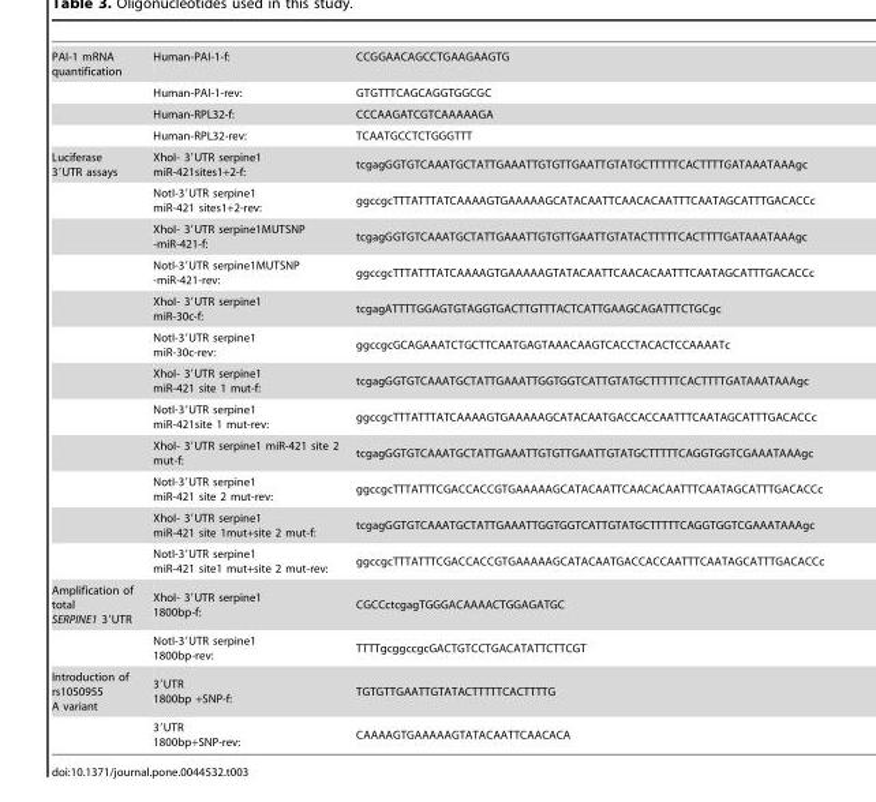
<table><tbody><tr><td rowspan="4">PAI-1 mRNA quantification</td><td>Human-PAI-1-f:</td><td>CCGGAACAGCCTGAAGAAGTG</td></tr><tr><td>Human-PAI-1-rev:</td><td>GTGTTTCAGCAGGTGGCGC</td></tr><tr><td>Human-RPL32-f:</td><td>CCCAAGATCGTCAAAAAGA</td></tr><tr><td>Human-RPL32-rev:</td><td>TCAATGCCTCTGGGTTT</td></tr><tr><td rowspan="12">Luciferase 3′UTR assays</td><td>XhoI- 3′UTR serpine1 miR-421sites1+2-f:</td><td>tcgagGGTGTCAAATGCTATTGAAATTGTGTTGAATTGTATGCTTTTTCACTTTTGATAAATAAAgc</td></tr><tr><td>NotI-3′UTR serpine1 miR-421 sites1+2-rev:</td><td>ggccgcTTTATTTATCAAAAGTGAAAAAGCATACAATTCAACACAATTTCAATAGCATTTGACACCc</td></tr><tr><td>XhoI- 3′UTR serpine1MUTSNP -miR-421-f:</td><td>tcgagGGTGTCAAATGCTATTGAAATTGTGTTGAATTGTATACTTTTTCACTTTTGATAAATAAAgc</td></tr><tr><td>NotI-3′UTR serpine1MUTSNP -miR-421-rev:</td><td>ggccgcTTTATTTATCAAAAGTGAAAAAGTATACAATTCAACACAATTTCAATAGCATTTGACACCc</td></tr><tr><td>XhoI- 3′UTR serpine1 miR-30c-f:</td><td>tcgagATTTTGGAGTGTAGGTGACTTGTTTACTCATTGAAGCAGATTTCTGCgc</td></tr><tr><td>NotI-3′UTR serpine1 miR-30c-rev:</td><td>ggccgcGCAGAAATCTGCTTCAATGAGTAAACAAGTCACCTACACTCCAAAATc</td></tr><tr><td>XhoI- 3′UTR serpine1 miR-421 site 1 mut-f:</td><td>tcgagGGTGTCAAATGCTATTGAAATTGGTGGTCATTGTATGCTTTTTCACTTTTGATAAATAAAgc</td></tr><tr><td>NotI-3′UTR serpine1 miR-421site 1 mut-rev:</td><td>ggccgcTTTATTTATCAAAAGTGAAAAAGCATACAATGACCACCAATTTCAATAGCATTTGACACCc</td></tr><tr><td>XhoI- 3′UTR serpine1 miR-421 site 2 mut-f:</td><td>tcgagGGTGTCAAATGCTATTGAAATTGTGTTGAATTGTATGCTTTTTCAGGTGGTCGAAATAAAgc</td></tr><tr><td>NotI-3′UTR serpine1 miR-421 site 2 mut-rev:</td><td>ggccgcTTTATTTCGACCACCGTGAAAAAGCATACAATTCAACACAATTTCAATAGCATTTGACACCc</td></tr><tr><td>XhoI- 3′UTR serpine1 miR-421 site 1mut+site 2 mut-f:</td><td>tcgagGGTGTCAAATGCTATTGAAATTGGTGGTCATTGTATGCTTTTTCAGGTGGTCGAAATAAAgc</td></tr><tr><td>NotI-3′UTR serpine1 miR-421 site1 mut+site 2 mut-rev:</td><td>ggccgcTTTATTTCGACCACCGTGAAAAAGCATACAATGACCACCAATTTCAATAGCATTTGACACCc</td></tr><tr><td rowspan="2">Amplification of total SERPINE1 3′UTR</td><td>XhoI- 3′UTR serpine1 1800bp-f:</td><td>CGCCctcgagTGGGACAAAACTGGAGATGC</td></tr><tr><td>NotI-3′UTR serpine1 1800bp-rev:</td><td>TTTTgcggccgcGACTGTCCTGACATATTCTTCGT</td></tr><tr><td rowspan="2">Introduction of rs1050955 A variant</td><td>3′UTR 1800bp +SNP-f:</td><td>TGTGTTGAATTGTATACTTTTTCACTTTTG</td></tr><tr><td>3′UTR 1800bp+SNP-rev:</td><td>CAAAAGTGAAAAAGTATACAATTCAACACA</td></tr></tbody></table>